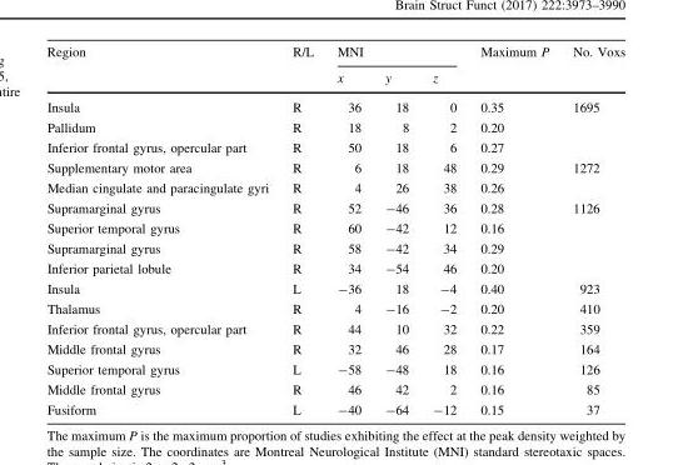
<table><thead><tr><td rowspan="2">Region</td><td rowspan="2">R/L</td><td colspan="3">MNI</td><td rowspan="2">Maximum P</td><td rowspan="2">No. Voxs</td></tr><tr><td>x</td><td>y</td><td>z</td></tr></thead><tbody><tr><td>Insula</td><td>R</td><td>36</td><td>18</td><td>0</td><td>0.35</td><td>1695</td></tr><tr><td>Pallidum</td><td>R</td><td>18</td><td>8</td><td>2</td><td>0.20</td><td></td></tr><tr><td>Inferior frontal gyrus, opercular part</td><td>R</td><td>50</td><td>18</td><td>6</td><td>0.27</td><td></td></tr><tr><td>Supplementary motor area</td><td>R</td><td>6</td><td>18</td><td>48</td><td>0.29</td><td>1272</td></tr><tr><td>Median cingulate and paracingulate gyri</td><td>R</td><td>4</td><td>26</td><td>38</td><td>0.26</td><td></td></tr><tr><td>Supramarginal gyrus</td><td>R</td><td>52</td><td>-46</td><td>36</td><td>0.28</td><td>1126</td></tr><tr><td>Superior temporal gyrus</td><td>R</td><td>60</td><td>-42</td><td>12</td><td>0.16</td><td></td></tr><tr><td>Supramarginal gyrus</td><td>R</td><td>58</td><td>-42</td><td>34</td><td>0.29</td><td></td></tr><tr><td>Inferior parietal lobule</td><td>R</td><td>34</td><td>-54</td><td>46</td><td>0.20</td><td></td></tr><tr><td>Insula</td><td>L</td><td>-36</td><td>18</td><td>-4</td><td>0.40</td><td>923</td></tr><tr><td>Thalamus</td><td>R</td><td>4</td><td>-16</td><td>-2</td><td>0.20</td><td>410</td></tr><tr><td>Inferior frontal gyrus, opercular part</td><td>R</td><td>44</td><td>10</td><td>32</td><td>0.22</td><td>359</td></tr><tr><td>Middle frontal gyrus</td><td>R</td><td>32</td><td>46</td><td>28</td><td>0.17</td><td>164</td></tr><tr><td>Superior temporal gyrus</td><td>L</td><td>-58</td><td>-48</td><td>18</td><td>0.16</td><td>126</td></tr><tr><td>Middle frontal gyrus</td><td>R</td><td>46</td><td>42</td><td>2</td><td>0.16</td><td>85</td></tr><tr><td>Fusiform</td><td>L</td><td>-40</td><td>-64</td><td>-12</td><td>0.15</td><td>37</td></tr></tbody></table>